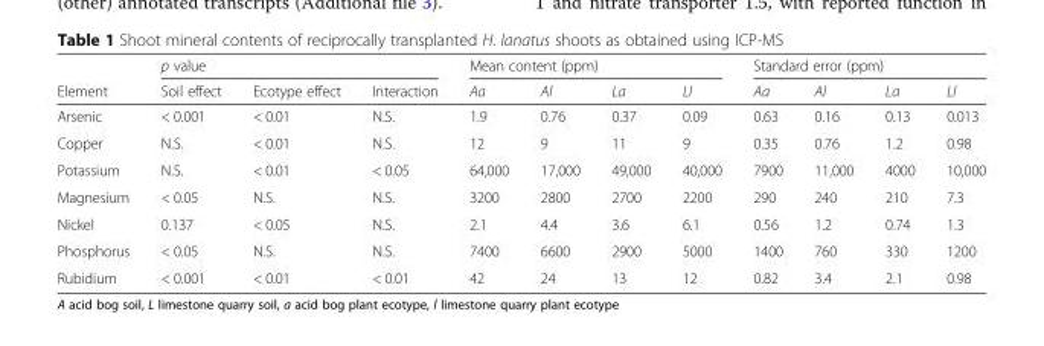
<table><thead><tr><td rowspan="2">Element</td><td colspan="3">p value</td><td colspan="4">Mean content (ppm)</td><td colspan="4">Standard error (ppm)</td></tr><tr><td>Soil effect</td><td>Ecotype effect</td><td>Interaction</td><td>Aa</td><td>Al</td><td>La</td><td>Ll</td><td>Aa</td><td>Al</td><td>La</td><td>Ll</td></tr></thead><tbody><tr><td>Arsenic</td><td>&lt; 0.001</td><td>&lt; 0.01</td><td>N.S.</td><td>1.9</td><td>0.76</td><td>0.37</td><td>0.09</td><td>0.63</td><td>0.16</td><td>0.13</td><td>0.013</td></tr><tr><td>Copper</td><td>N.S.</td><td>&lt; 0.01</td><td>N.S.</td><td>12</td><td>9</td><td>11</td><td>9</td><td>0.35</td><td>0.76</td><td>1.2</td><td>0.98</td></tr><tr><td>Potassium</td><td>N.S.</td><td>&lt; 0.01</td><td>&lt; 0.05</td><td>64,000</td><td>17,000</td><td>49,000</td><td>40,000</td><td>7900</td><td>11,000</td><td>4000</td><td>10,000</td></tr><tr><td>Magnesium</td><td>&lt; 0.05</td><td>N.S.</td><td>N.S.</td><td>3200</td><td>2800</td><td>2700</td><td>2200</td><td>290</td><td>240</td><td>210</td><td>7.3</td></tr><tr><td>Nickel</td><td>0.137</td><td>&lt; 0.05</td><td>N.S.</td><td>2.1</td><td>4.4</td><td>3.6</td><td>6.1</td><td>0.56</td><td>1.2</td><td>0.74</td><td>1.3</td></tr><tr><td>Phosphorus</td><td>&lt; 0.05</td><td>N.S.</td><td>N.S.</td><td>7400</td><td>6600</td><td>2900</td><td>5000</td><td>1400</td><td>760</td><td>330</td><td>1200</td></tr><tr><td>Rubidium</td><td>&lt; 0.001</td><td>&lt; 0.01</td><td>&lt; 0.01</td><td>42</td><td>24</td><td>13</td><td>12</td><td>0.82</td><td>3.4</td><td>2.1</td><td>0.98</td></tr></tbody></table>